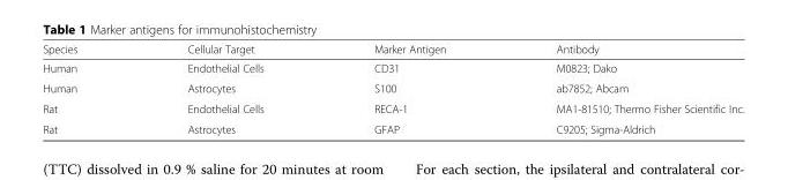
<table><thead><tr><td>Species</td><td>Cellular Target</td><td>Marker Antigen</td><td>Antibody</td></tr></thead><tbody><tr><td>Human</td><td>Endothelial Cells</td><td>CD31</td><td>M0823; Dako</td></tr><tr><td>Human</td><td>Astrocytes</td><td>S100</td><td>ab7852; Abcam</td></tr><tr><td>Rat</td><td>Endothelial Cells</td><td>RECA-1</td><td>MA1-81510; Thermo Fisher Scientific Inc.</td></tr><tr><td>Rat</td><td>Astrocytes</td><td>GFAP</td><td>C9205; Sigma-Aldrich</td></tr></tbody></table>